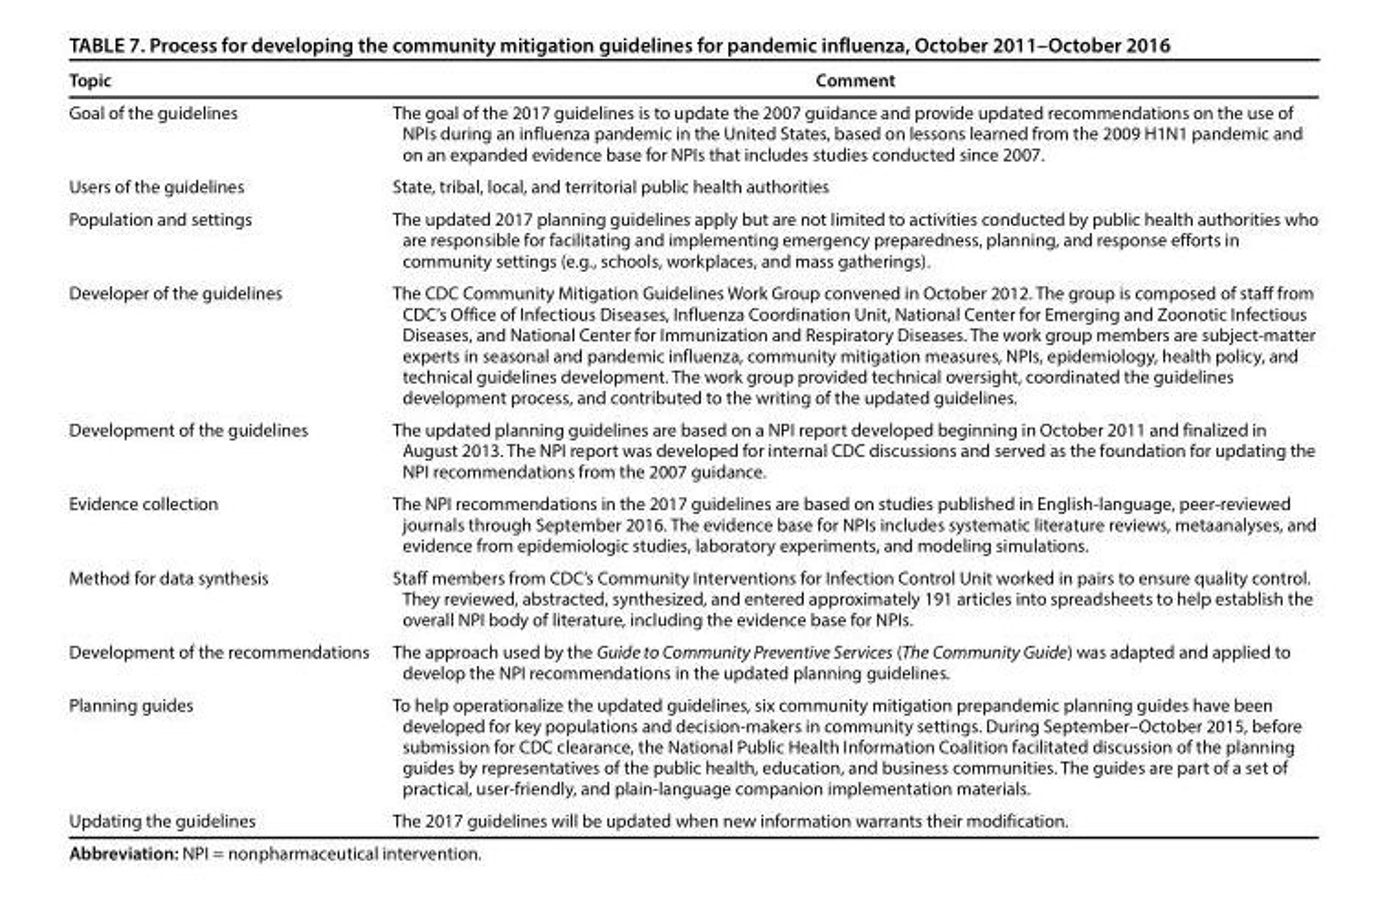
<table><thead><tr><td>Topic</td><td>Comment</td></tr></thead><tbody><tr><td>Goal of the guidelines</td><td>The goal of the 2017 guidelines is to update the 2007 guidance and provide updated recommendations on the use of NPIs during an influenza pandemic in the United States, based on lessons learned from the 2009 H1N1 pandemic and on an expanded evidence base for NPIs that includes studies conducted since 2007.</td></tr><tr><td>Users of the guidelines</td><td>State, tribal, local, and territorial public health authorities</td></tr><tr><td>Population and settings</td><td>The updated 2017 planning guidelines apply but are not limited to activities conducted by public health authorities who are responsible for facilitating and implementing emergency preparedness, planning, and response efforts in community settings (e.g., schools, workplaces, and mass gatherings).</td></tr><tr><td>Developer of the guidelines</td><td>The CDC Community Mitigation Guidelines Work Group convened in October 2012. The group is composed of staff from CDC’s Office of Infectious Diseases, Influenza Coordination Unit, National Center for Emerging and Zoonotic Infectious Diseases, and National Center for Immunization and Respiratory Diseases. The work group members are subject-matter experts in seasonal and pandemic influenza, community mitigation measures, NPIs, epidemiology, health policy, and technical guidelines development. The work group provided technical oversight, coordinated the guidelines development process, and contributed to the writing of the updated guidelines.</td></tr><tr><td>Development of the guidelines</td><td>The updated planning guidelines are based on a NPI report developed beginning in October 2011 and finalized in August 2013. The NPI report was developed for internal CDC discussions and served as the foundation for updating the NPI recommendations from the 2007 guidance.</td></tr><tr><td>Evidence collection</td><td>The NPI recommendations in the 2017 guidelines are based on studies published in English-language, peer-reviewed journals through September 2016. The evidence base for NPIs includes systematic literature reviews, metaanalyses, and evidence from epidemiologic studies, laboratory experiments, and modeling simulations.</td></tr><tr><td>Method for data synthesis</td><td>Staff members from CDC’s Community Interventions for Infection Control Unit worked in pairs to ensure quality control. They reviewed, abstracted, synthesized, and entered approximately 191 articles into spreadsheets to help establish the overall NPI body of literature, including the evidence base for NPIs.</td></tr><tr><td>Development of the recommendations</td><td>The approach used by the Guide to Community Preventive Services (The Community Guide) was adapted and applied to develop the NPI recommendations in the updated planning guidelines.</td></tr><tr><td>Planning guides</td><td>To help operationalize the updated guidelines, six community mitigation prepandemic planning guides have been developed for key populations and decision-makers in community settings. During September–October 2015, before submission for CDC clearance, the National Public Health Information Coalition facilitated discussion of the planning guides by representatives of the public health, education, and business communities. The guides are part of a set of practical, user-friendly, and plain-language companion implementation materials.</td></tr><tr><td>Updating the guidelines</td><td>The 2017 guidelines will be updated when new information warrants their modification.</td></tr></tbody></table>